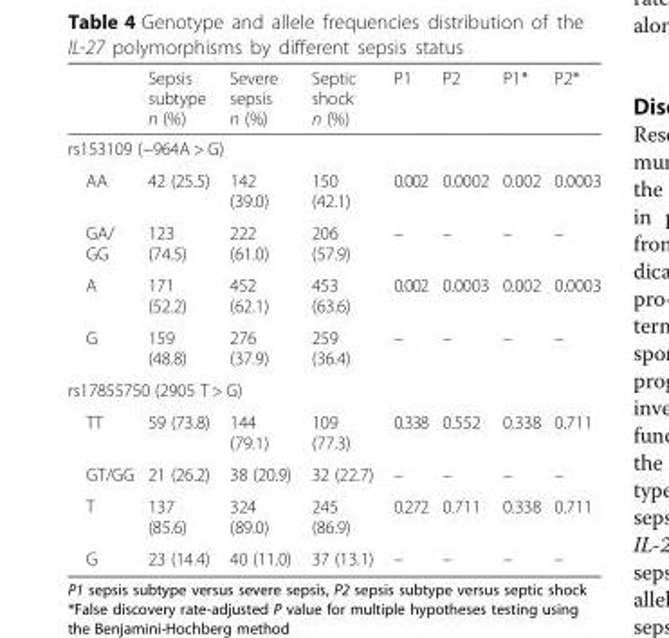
<table><thead><tr><td></td><td>Sepsis subtype n (%)</td><td>Severe sepsis n (%)</td><td>Septic shock n (%)</td><td>P1</td><td>P2</td><td>P1*</td><td>P2*</td></tr></thead><tbody><tr><td colspan="8">rs153109 (−964A &gt; G)</td></tr><tr><td>AA</td><td>42 (25.5)</td><td>142 (39.0)</td><td>150 (42.1)</td><td>0.002</td><td>0.0002</td><td>0.002</td><td>0.0003</td></tr><tr><td>GA/ GG</td><td>123 (74.5)</td><td>222 (61.0)</td><td>206 (57.9)</td><td>–</td><td>–</td><td>–</td><td>–</td></tr><tr><td>A</td><td>171 (52.2)</td><td>452 (62.1)</td><td>453 (63.6)</td><td>0.002</td><td>0.0003</td><td>0.002</td><td>0.0003</td></tr><tr><td>G</td><td>159 (48.8)</td><td>276 (37.9)</td><td>259 (36.4)</td><td>–</td><td>–</td><td>–</td><td>–</td></tr><tr><td colspan="8">rs17855750 (2905 T &gt; G)</td></tr><tr><td>TT</td><td>59 (73.8)</td><td>144 (79.1)</td><td>109 (77.3)</td><td>0.338</td><td>0.552</td><td>0.338</td><td>0.711</td></tr><tr><td>GT/GG</td><td>21 (26.2)</td><td>38 (20.9)</td><td>32 (22.7)</td><td>–</td><td>–</td><td>–</td><td>–</td></tr><tr><td>T</td><td>137 (85.6)</td><td>324 (89.0)</td><td>245 (86.9)</td><td>0.272</td><td>0.711</td><td>0.338</td><td>0.711</td></tr><tr><td>G</td><td>23 (14.4)</td><td>40 (11.0)</td><td>37 (13.1)</td><td>–</td><td>–</td><td>–</td><td>–</td></tr></tbody></table>